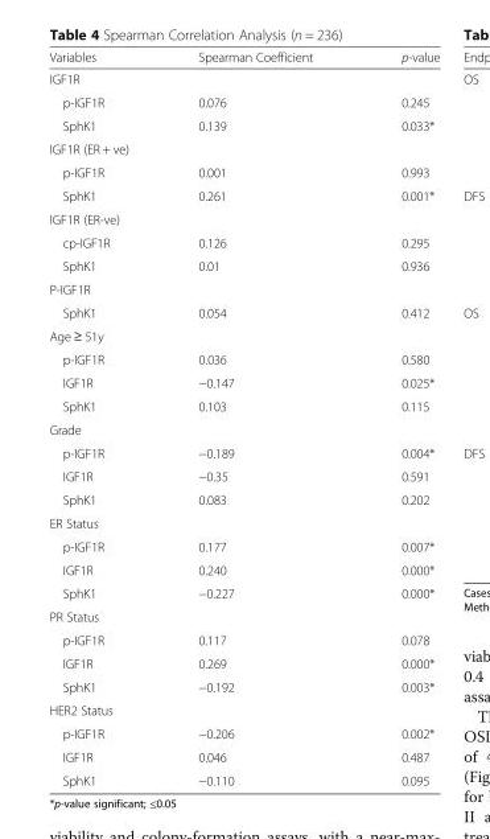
<table><thead><tr><td>Variables</td><td>Spearman Coefficient</td><td>p-value</td></tr></thead><tbody><tr><td colspan="3">IGF1R</td></tr><tr><td>p-IGF1R</td><td>0.076</td><td>0.245</td></tr><tr><td>SphK1</td><td>0.139</td><td>0.033*</td></tr><tr><td colspan="3">IGF1R (ER + ve)</td></tr><tr><td>p-IGF1R</td><td>0.001</td><td>0.993</td></tr><tr><td>SphK1</td><td>0.261</td><td>0.001*</td></tr><tr><td colspan="3">IGF1R (ER-ve)</td></tr><tr><td>cp-IGF1R</td><td>0.126</td><td>0.295</td></tr><tr><td>SphK1</td><td>0.01</td><td>0.936</td></tr><tr><td colspan="3">P-IGF1R</td></tr><tr><td>SphK1</td><td>0.054</td><td>0.412</td></tr><tr><td colspan="3">Age ≥ 51y</td></tr><tr><td>p-IGF1R</td><td>0.036</td><td>0.580</td></tr><tr><td>IGF1R</td><td>−0.147</td><td>0.025*</td></tr><tr><td>SphK1</td><td>0.103</td><td>0.115</td></tr><tr><td colspan="3">Grade</td></tr><tr><td>p-IGF1R</td><td>−0.189</td><td>0.004*</td></tr><tr><td>IGF1R</td><td>−0.35</td><td>0.591</td></tr><tr><td>SphK1</td><td>0.083</td><td>0.202</td></tr><tr><td colspan="3">ER Status</td></tr><tr><td>p-IGF1R</td><td>0.177</td><td>0.007*</td></tr><tr><td>IGF1R</td><td>0.240</td><td>0.000*</td></tr><tr><td>SphK1</td><td>−0.227</td><td>0.000*</td></tr><tr><td colspan="3">PR Status</td></tr><tr><td>p-IGF1R</td><td>0.117</td><td>0.078</td></tr><tr><td>IGF1R</td><td>0.269</td><td>0.000*</td></tr><tr><td>SphK1</td><td>−0.192</td><td>0.003*</td></tr><tr><td colspan="3">HER2 Status</td></tr><tr><td>p-IGF1R</td><td>−0.206</td><td>0.002*</td></tr><tr><td>IGF1R</td><td>0.046</td><td>0.487</td></tr><tr><td>SphK1</td><td>−0.110</td><td>0.095</td></tr></tbody></table>